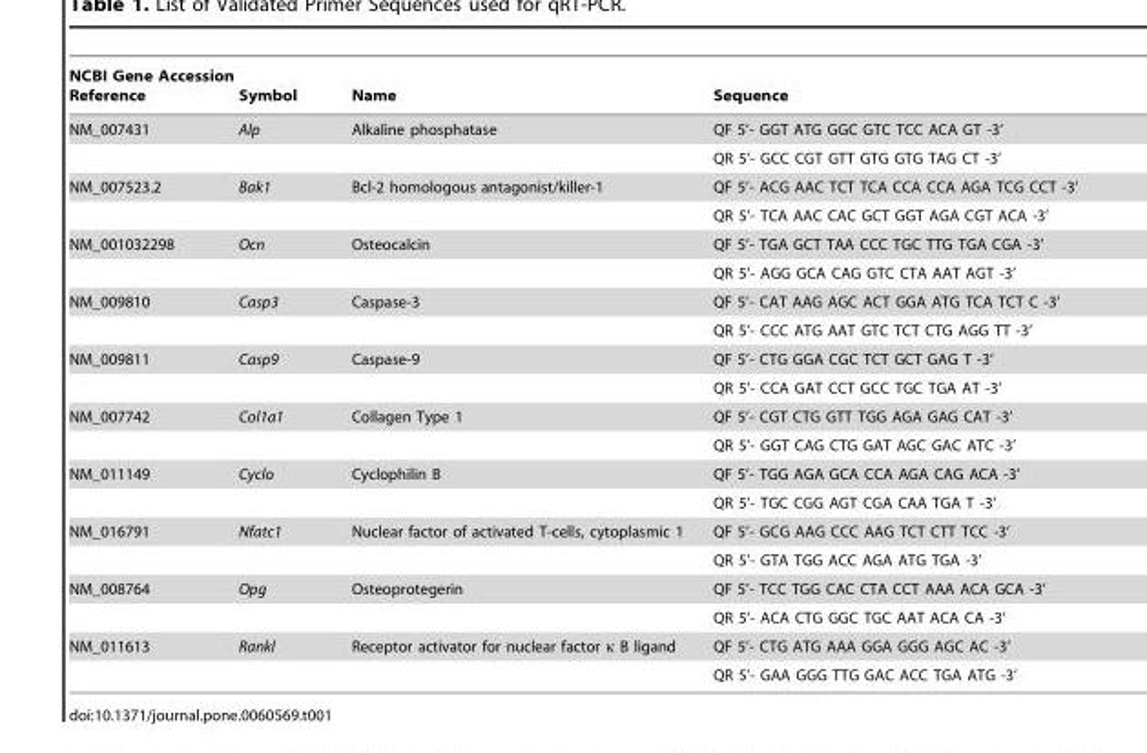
<table><thead><tr><td>NCBI Gene Accession Reference</td><td>Symbol</td><td>Name</td><td>Sequence</td></tr></thead><tbody><tr><td rowspan="2">NM_007431</td><td>Alp</td><td>Alkaline phosphatase</td><td>QF 5’- GGT ATG GGC GTC TCC ACA GT -3’</td></tr><tr><td></td><td></td><td>QR 5’- GCC CGT GTT GTG GTG TAG CT -3’</td></tr><tr><td rowspan="2">NM_007523.2</td><td>Bak1</td><td>Bcl-2 homologous antagonist/killer-1</td><td>QF 5’- ACG AAC TCT TCA CCA CCA AGA TCG CCT -3’</td></tr><tr><td></td><td></td><td>QR 5’- TCA AAC CAC GCT GGT AGA CGT ACA -3’</td></tr><tr><td rowspan="2">NM_001032298</td><td>Ocn</td><td>Osteocalcin</td><td>QF 5’- TGA GCT TAA CCC TGC TTG TGA CGA -3’</td></tr><tr><td></td><td></td><td>QR 5’- AGG GCA CAG GTC CTA AAT AGT -3’</td></tr><tr><td rowspan="2">NM_009810</td><td>Casp3</td><td>Caspase-3</td><td>QF 5’- CAT AAG AGC ACT GGA ATG TCA TCT C -3’</td></tr><tr><td></td><td></td><td>QR 5’- CCC ATG AAT GTC TCT CTG AGG TT -3’</td></tr><tr><td rowspan="2">NM_009811</td><td>Casp9</td><td>Caspase-9</td><td>QF 5’- CTG GGA CGC TCT GCT GAG T -3’</td></tr><tr><td></td><td></td><td>QR 5’- CCA GAT CCT GCC TGC TGA AT -3’</td></tr><tr><td rowspan="2">NM_007742</td><td>Col1a1</td><td>Collagen Type 1</td><td>QF 5’- CGT CTG GTT TGG AGA GAG CAT -3’</td></tr><tr><td></td><td></td><td>QR 5’- GGT CAG CTG GAT AGC GAC ATC -3’</td></tr><tr><td rowspan="2">NM_011149</td><td>Cyclo</td><td>Cyclophilin B</td><td>QF 5’- TGG AGA GCA CCA AGA CAG ACA -3’</td></tr><tr><td></td><td></td><td>QR 5’- TGC CGG AGT CGA CAA TGA T -3’</td></tr><tr><td rowspan="2">NM_016791</td><td>Nfatc1</td><td>Nuclear factor of activated T-cells, cytoplasmic 1</td><td>QF 5’- GCG AAG CCC AAG TCT CTT TCC -3’</td></tr><tr><td></td><td></td><td>QR 5’- GTA TGG ACC AGA ATG TGA -3’</td></tr><tr><td rowspan="2">NM_008764</td><td>Opg</td><td>Osteoprotegerin</td><td>QF 5’- TCC TGG CAC CTA CCT AAA ACA GCA -3’</td></tr><tr><td></td><td></td><td>QR 5’- ACA CTG GGC TGC AAT ACA CA -3’</td></tr><tr><td rowspan="2">NM_011613</td><td>Rankl</td><td>Receptor activator for nuclear factor κ B ligand</td><td>QF 5’- CTG ATG AAA GGA GGG AGC AC -3’</td></tr><tr><td></td><td></td><td>QR 5’- GAA GGG TTG GAC ACC TGA ATG -3’</td></tr></tbody></table>